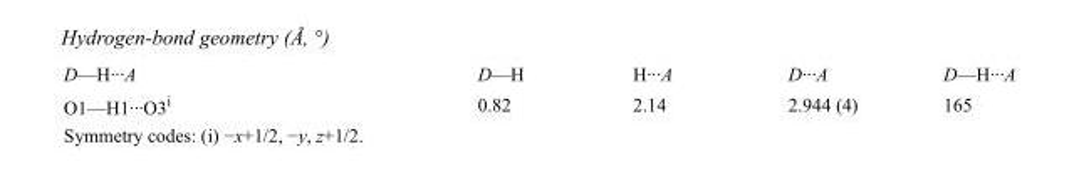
<table><tbody><tr><td>D—H···A</td><td>D—H</td><td>H···A</td><td>D···A</td><td>D—H···A</td></tr><tr><td>O1—H1···O3<sup>i</sup></td><td>0.82</td><td>2.14</td><td>2.944 (4)</td><td>165</td></tr></tbody></table>